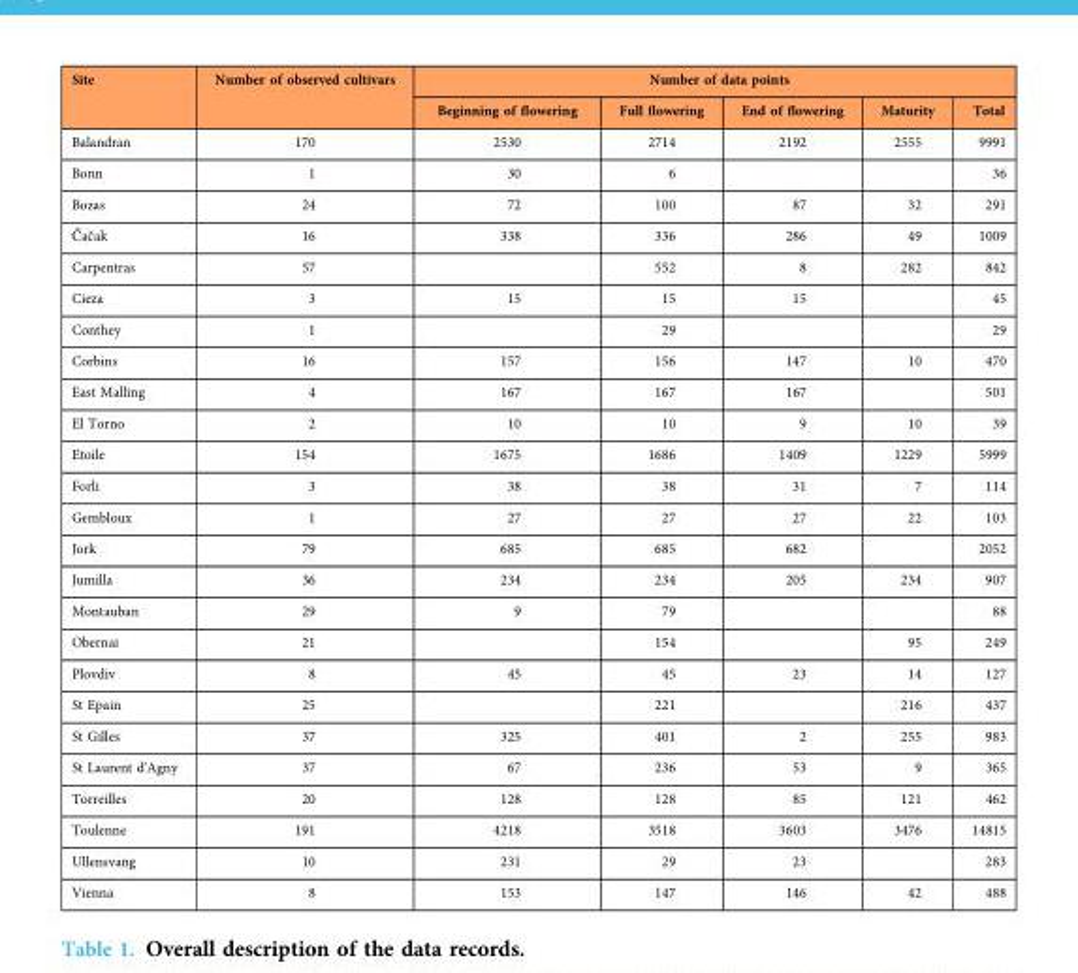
<table><thead><tr><td rowspan="2">Site</td><td rowspan="2">Number of observed cultivars</td><td colspan="5">Number of data points</td></tr><tr><td>Beginning of flowering</td><td>Full flowering</td><td>End of flowering</td><td>Maturity</td><td>Total</td></tr></thead><tbody><tr><td>Balandran</td><td>170</td><td>2530</td><td>2714</td><td>2192</td><td>2555</td><td>9991</td></tr><tr><td>Bonn</td><td>1</td><td>30</td><td>6</td><td></td><td></td><td>36</td></tr><tr><td>Bozas</td><td>24</td><td>72</td><td>100</td><td>87</td><td>32</td><td>291</td></tr><tr><td>Čačak</td><td>16</td><td>338</td><td>336</td><td>286</td><td>49</td><td>1009</td></tr><tr><td>Carpentras</td><td>57</td><td></td><td>552</td><td>8</td><td>282</td><td>842</td></tr><tr><td>Cieza</td><td>3</td><td>15</td><td>15</td><td>15</td><td></td><td>45</td></tr><tr><td>Conthey</td><td>1</td><td></td><td>29</td><td></td><td></td><td>29</td></tr><tr><td>Corbins</td><td>16</td><td>157</td><td>156</td><td>147</td><td>10</td><td>470</td></tr><tr><td>East Malling</td><td>4</td><td>167</td><td>167</td><td>167</td><td></td><td>501</td></tr><tr><td>El Torno</td><td>2</td><td>10</td><td>10</td><td>9</td><td>10</td><td>39</td></tr><tr><td>Etoile</td><td>154</td><td>1675</td><td>1686</td><td>1409</td><td>1229</td><td>5999</td></tr><tr><td>Forli</td><td>3</td><td>38</td><td>38</td><td>31</td><td>7</td><td>114</td></tr><tr><td>Gembloux</td><td>1</td><td>27</td><td>27</td><td>27</td><td>22</td><td>103</td></tr><tr><td>Jork</td><td>79</td><td>685</td><td>685</td><td>682</td><td></td><td>2052</td></tr><tr><td>Jumilla</td><td>36</td><td>234</td><td>234</td><td>205</td><td>234</td><td>907</td></tr><tr><td>Montauban</td><td>29</td><td>9</td><td>79</td><td></td><td></td><td>88</td></tr><tr><td>Obernai</td><td>21</td><td></td><td>154</td><td></td><td>95</td><td>249</td></tr><tr><td>Plovdiv</td><td>8</td><td>45</td><td>45</td><td>23</td><td>14</td><td>127</td></tr><tr><td>St Epain</td><td>25</td><td></td><td>221</td><td></td><td>216</td><td>437</td></tr><tr><td>St Gilles</td><td>37</td><td>325</td><td>401</td><td>2</td><td>255</td><td>983</td></tr><tr><td>St Laurent d&#x27;Agny</td><td>37</td><td>67</td><td>236</td><td>53</td><td>9</td><td>365</td></tr><tr><td>Torreilles</td><td>20</td><td>128</td><td>128</td><td>85</td><td>121</td><td>462</td></tr><tr><td>Toulenne</td><td>191</td><td>4218</td><td>3518</td><td>3603</td><td>3476</td><td>14815</td></tr><tr><td>Ullensvang</td><td>10</td><td>231</td><td>29</td><td>23</td><td></td><td>283</td></tr><tr><td>Vienna</td><td>8</td><td>153</td><td>147</td><td>146</td><td>42</td><td>488</td></tr></tbody></table>